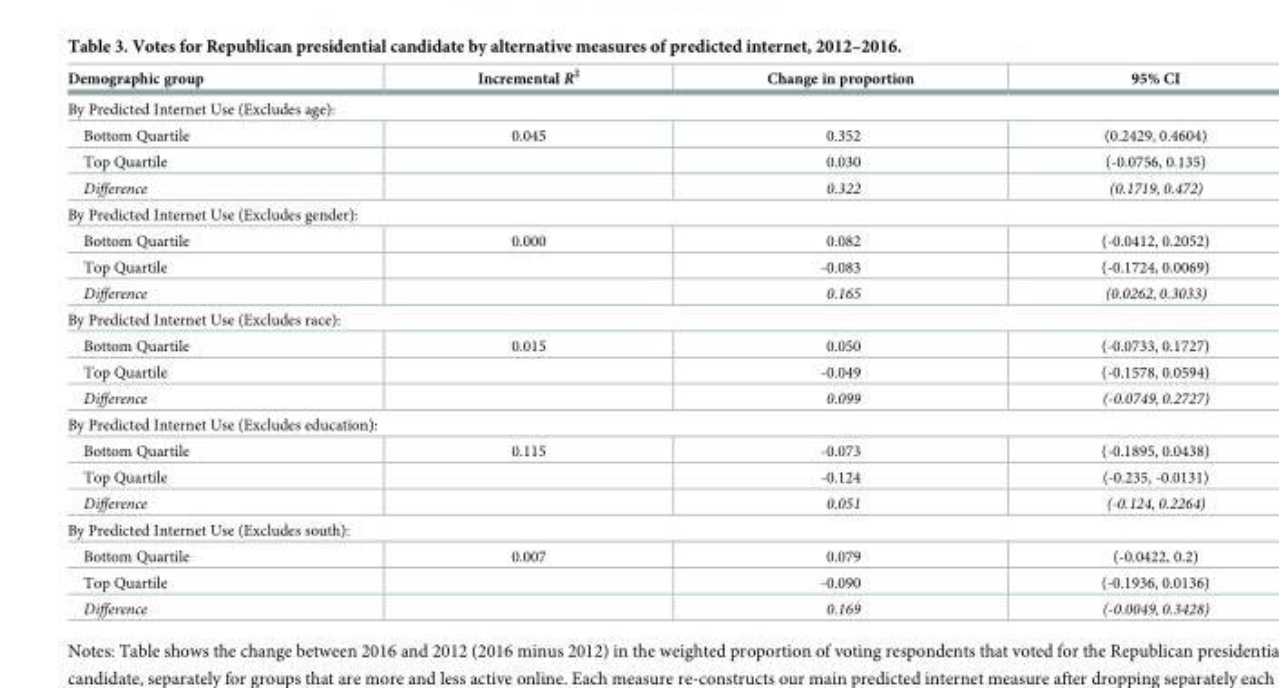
<table><thead><tr><td>Demographic group</td><td>Incremental R<sup>2</sup></td><td>Change in proportion</td><td>95% CI</td></tr></thead><tbody><tr><td colspan="4">By Predicted Internet Use (Excludes age):</td></tr><tr><td>Bottom Quartile</td><td>0.045</td><td>0.352</td><td>(0.2429, 0.4604)</td></tr><tr><td>Top Quartile</td><td></td><td>0.030</td><td>(-0.0756, 0.135)</td></tr><tr><td>Difference</td><td></td><td>0.322</td><td>(0.1719, 0.472)</td></tr><tr><td colspan="4">By Predicted Internet Use (Excludes gender):</td></tr><tr><td>Bottom Quartile</td><td>0.000</td><td>0.082</td><td>(-0.0412, 0.2052)</td></tr><tr><td>Top Quartile</td><td></td><td>-0.083</td><td>(-0.1724, 0.0069)</td></tr><tr><td>Difference</td><td></td><td>0.165</td><td>(0.0262, 0.3033)</td></tr><tr><td colspan="4">By Predicted Internet Use (Excludes race):</td></tr><tr><td>Bottom Quartile</td><td>0.015</td><td>0.050</td><td>(-0.0733, 0.1727)</td></tr><tr><td>Top Quartile</td><td></td><td>-0.049</td><td>(-0.1578, 0.0594)</td></tr><tr><td>Difference</td><td></td><td>0.099</td><td>(-0.0749, 0.2727)</td></tr><tr><td colspan="4">By Predicted Internet Use (Excludes education):</td></tr><tr><td>Bottom Quartile</td><td>0.115</td><td>-0.073</td><td>(-0.1895, 0.0438)</td></tr><tr><td>Top Quartile</td><td></td><td>-0.124</td><td>(-0.235, -0.0131)</td></tr><tr><td>Difference</td><td></td><td>0.051</td><td>(-0.124, 0.2264)</td></tr><tr><td colspan="4">By Predicted Internet Use (Excludes south):</td></tr><tr><td>Bottom Quartile</td><td>0.007</td><td>0.079</td><td>(-0.0422, 0.2)</td></tr><tr><td>Top Quartile</td><td></td><td>-0.090</td><td>(-0.1936, 0.0136)</td></tr><tr><td>Difference</td><td></td><td>0.169</td><td>(-0.0049, 0.3428)</td></tr></tbody></table>